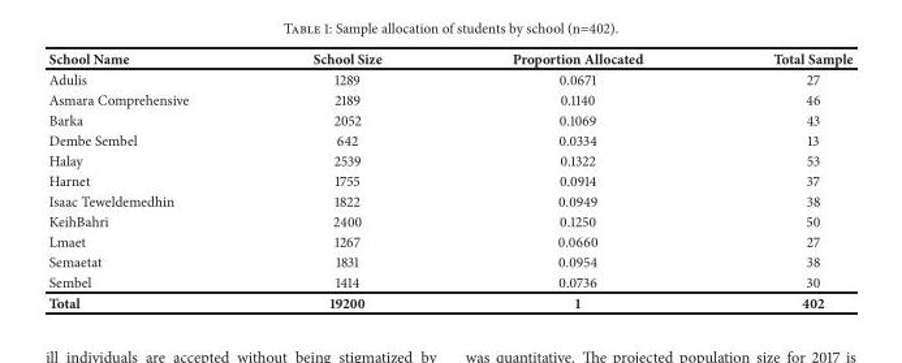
<table><thead><tr><td>School Name</td><td>School Size</td><td>Proportion Allocated</td><td>Total Sample</td></tr></thead><tbody><tr><td>Adulis</td><td>1289</td><td>0.0671</td><td>27</td></tr><tr><td>Asmara Comprehensive</td><td>2189</td><td>0.1140</td><td>46</td></tr><tr><td>Barka</td><td>2052</td><td>0.1069</td><td>43</td></tr><tr><td>Dembe Sembel</td><td>642</td><td>0.0334</td><td>13</td></tr><tr><td>Halay</td><td>2539</td><td>0.1322</td><td>53</td></tr><tr><td>Harnet</td><td>1755</td><td>0.0914</td><td>37</td></tr><tr><td>Isaac Teweldemedhin</td><td>1822</td><td>0.0949</td><td>38</td></tr><tr><td>KeihBahri</td><td>2400</td><td>0.1250</td><td>50</td></tr><tr><td>Lmaet</td><td>1267</td><td>0.0660</td><td>27</td></tr><tr><td>Semaetat</td><td>1831</td><td>0.0954</td><td>38</td></tr><tr><td>Sembel</td><td>1414</td><td>0.0736</td><td>30</td></tr><tr><td>Total</td><td>19200</td><td>1</td><td>402</td></tr></tbody></table>